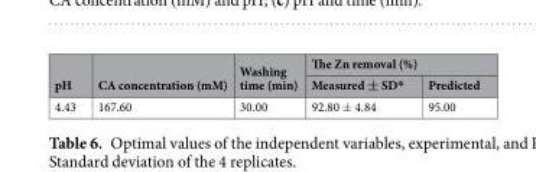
<table><thead><tr><td rowspan="2">pH</td><td rowspan="2">CA concentration (mM)</td><td rowspan="2">Washing time (min)</td><td colspan="2">The Zn removal (%)</td></tr><tr><td>Measured ± SD*</td><td>Predicted</td></tr></thead><tbody><tr><td>4.43</td><td>167.60</td><td>30.00</td><td>92.80 ± 4.84</td><td>95.00</td></tr></tbody></table>